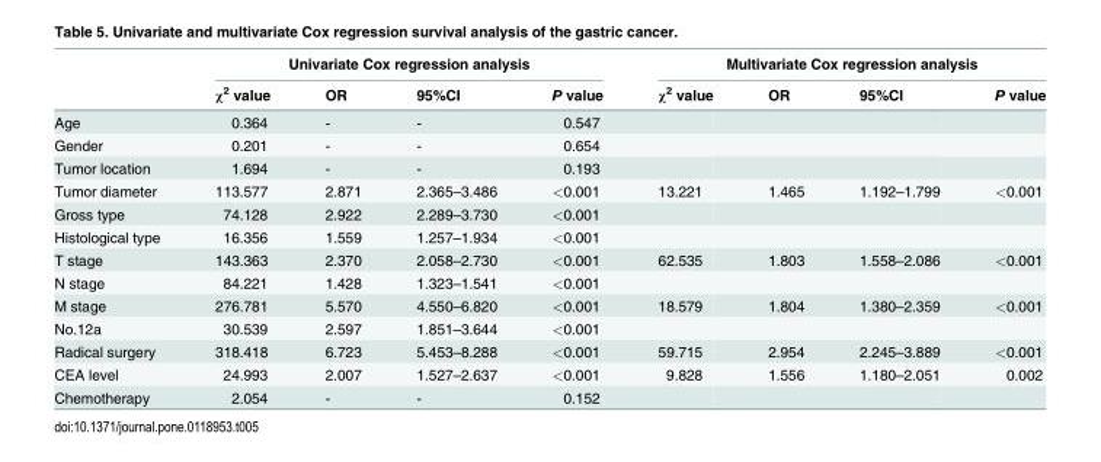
<table><thead><tr><td rowspan="2"></td><td colspan="4">Univariate Cox regression analysis</td><td colspan="4">Multivariate Cox regression analysis</td></tr><tr><td>χ<sup>2</sup> value</td><td>OR</td><td>95%CI</td><td>P value</td><td>χ<sup>2</sup> value</td><td>OR</td><td>95%CI</td><td>P value</td></tr></thead><tbody><tr><td>Age</td><td>0.364</td><td>-</td><td>-</td><td>0.547</td><td></td><td></td><td></td><td></td></tr><tr><td>Gender</td><td>0.201</td><td>-</td><td>-</td><td>0.654</td><td></td><td></td><td></td><td></td></tr><tr><td>Tumor location</td><td>1.694</td><td>-</td><td>-</td><td>0.193</td><td></td><td></td><td></td><td></td></tr><tr><td>Tumor diameter</td><td>113.577</td><td>2.871</td><td>2.365–3.486</td><td>&lt;0.001</td><td>13.221</td><td>1.465</td><td>1.192–1.799</td><td>&lt;0.001</td></tr><tr><td>Gross type</td><td>74.128</td><td>2.922</td><td>2.289–3.730</td><td>&lt;0.001</td><td></td><td></td><td></td><td></td></tr><tr><td>Histological type</td><td>16.356</td><td>1.559</td><td>1.257–1.934</td><td>&lt;0.001</td><td></td><td></td><td></td><td></td></tr><tr><td>T stage</td><td>143.363</td><td>2.370</td><td>2.058–2.730</td><td>&lt;0.001</td><td>62.535</td><td>1.803</td><td>1.558–2.086</td><td>&lt;0.001</td></tr><tr><td>N stage</td><td>84.221</td><td>1.428</td><td>1.323–1.541</td><td>&lt;0.001</td><td></td><td></td><td></td><td></td></tr><tr><td>M stage</td><td>276.781</td><td>5.570</td><td>4.550–6.820</td><td>&lt;0.001</td><td>18.579</td><td>1.804</td><td>1.380–2.359</td><td>&lt;0.001</td></tr><tr><td>No.12a</td><td>30.539</td><td>2.597</td><td>1.851–3.644</td><td>&lt;0.001</td><td></td><td></td><td></td><td></td></tr><tr><td>Radical surgery</td><td>318.418</td><td>6.723</td><td>5.453–8.288</td><td>&lt;0.001</td><td>59.715</td><td>2.954</td><td>2.245–3.889</td><td>&lt;0.001</td></tr><tr><td>CEA level</td><td>24.993</td><td>2.007</td><td>1.527–2.637</td><td>&lt;0.001</td><td>9.828</td><td>1.556</td><td>1.180–2.051</td><td>0.002</td></tr><tr><td>Chemotherapy</td><td>2.054</td><td>-</td><td>-</td><td>0.152</td><td></td><td></td><td></td><td></td></tr></tbody></table>